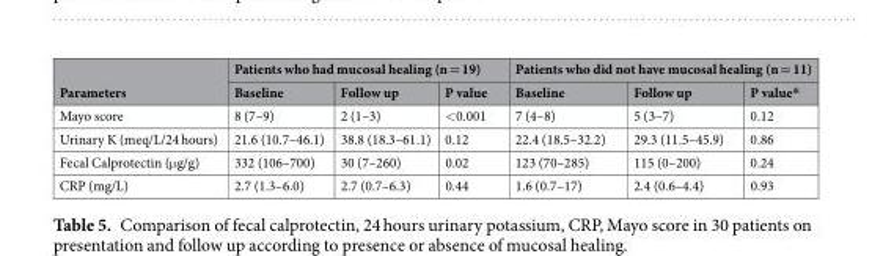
<table><thead><tr><td rowspan="2">Parameters</td><td colspan="3">Patients who had mucosal healing (n = 19)</td><td colspan="3">Patients who did not have mucosal healing (n = 11)</td></tr><tr><td>Baseline</td><td>Follow up</td><td>P value</td><td>Baseline</td><td>Follow up</td><td>P value*</td></tr></thead><tbody><tr><td>Mayo score</td><td>8 (7–9)</td><td>2 (1–3)</td><td>&lt;0.001</td><td>7 (4–8)</td><td>5 (3–7)</td><td>0.12</td></tr><tr><td>Urinary K (meq/L/24 hours)</td><td>21.6 (10.7–46.1)</td><td>38.8 (18.3–61.1)</td><td>0.12</td><td>22.4 (18.5–32.2)</td><td>29.3 (11.5–45.9)</td><td>0.86</td></tr><tr><td>Fecal Calprotectin (μg/g)</td><td>332 (106–700)</td><td>30 (7–260)</td><td>0.02</td><td>123 (70–285)</td><td>115 (0–200)</td><td>0.24</td></tr><tr><td>CRP (mg/L)</td><td>2.7 (1.3–6.0)</td><td>2.7 (0.7–6.3)</td><td>0.44</td><td>1.6 (0.7–17)</td><td>2.4 (0.6–4.4)</td><td>0.93</td></tr></tbody></table>